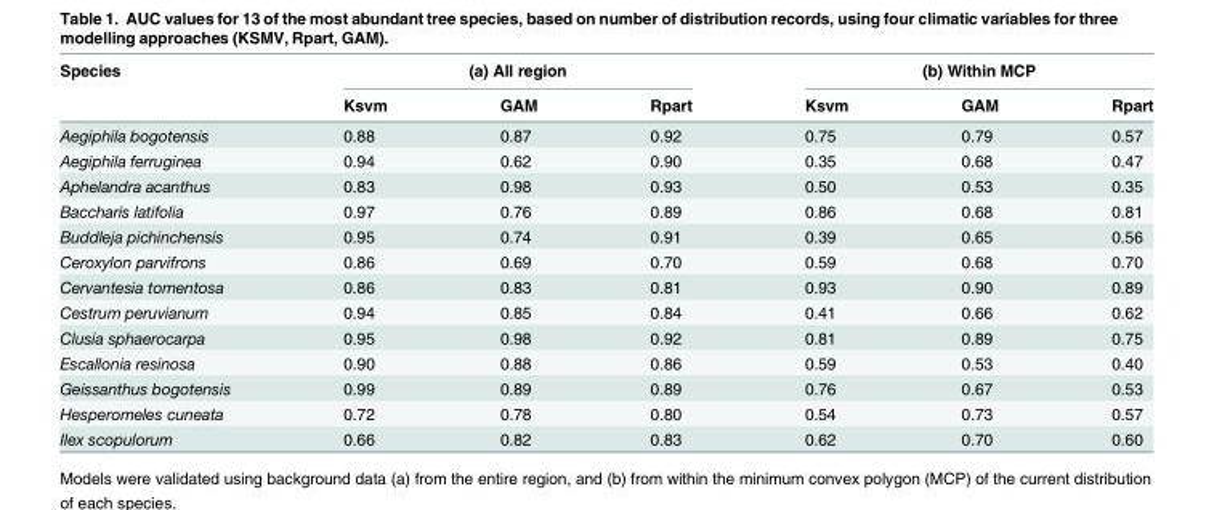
<table><thead><tr><td rowspan="2">Species</td><td colspan="3">(a) All region</td><td colspan="3">(b) Within MCP</td></tr><tr><td>Ksvm</td><td>GAM</td><td>Rpart</td><td>Ksvm</td><td>GAM</td><td>Rpart</td></tr></thead><tbody><tr><td>Aegiphila bogotensis</td><td>0.88</td><td>0.87</td><td>0.92</td><td>0.75</td><td>0.79</td><td>0.57</td></tr><tr><td>Aegiphila ferruginea</td><td>0.94</td><td>0.62</td><td>0.90</td><td>0.35</td><td>0.68</td><td>0.47</td></tr><tr><td>Aphelandra acanthus</td><td>0.83</td><td>0.98</td><td>0.93</td><td>0.50</td><td>0.53</td><td>0.35</td></tr><tr><td>Baccharis latifolia</td><td>0.97</td><td>0.76</td><td>0.89</td><td>0.86</td><td>0.68</td><td>0.81</td></tr><tr><td>Buddleja pichinchensis</td><td>0.95</td><td>0.74</td><td>0.91</td><td>0.39</td><td>0.65</td><td>0.56</td></tr><tr><td>Ceroxylon parvifrons</td><td>0.86</td><td>0.69</td><td>0.70</td><td>0.59</td><td>0.68</td><td>0.70</td></tr><tr><td>Cervantesia tomentosa</td><td>0.86</td><td>0.83</td><td>0.81</td><td>0.93</td><td>0.90</td><td>0.89</td></tr><tr><td>Cestrum peruvianum</td><td>0.94</td><td>0.85</td><td>0.84</td><td>0.41</td><td>0.66</td><td>0.62</td></tr><tr><td>Clusia sphaerocarpa</td><td>0.95</td><td>0.98</td><td>0.92</td><td>0.81</td><td>0.89</td><td>0.75</td></tr><tr><td>Escallonia resinosa</td><td>0.90</td><td>0.88</td><td>0.86</td><td>0.59</td><td>0.53</td><td>0.40</td></tr><tr><td>Geissanthus bogotensis</td><td>0.99</td><td>0.89</td><td>0.89</td><td>0.76</td><td>0.67</td><td>0.53</td></tr><tr><td>Hesperomeles cuneata</td><td>0.72</td><td>0.78</td><td>0.80</td><td>0.54</td><td>0.73</td><td>0.57</td></tr><tr><td>Ilex scopulorum</td><td>0.66</td><td>0.82</td><td>0.83</td><td>0.62</td><td>0.70</td><td>0.60</td></tr></tbody></table>